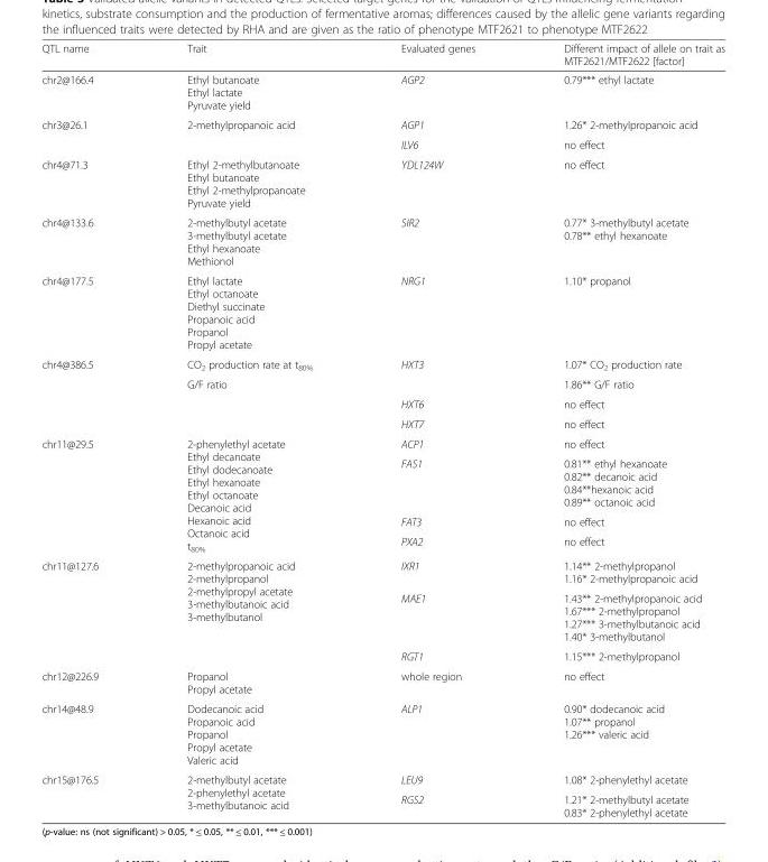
<table><thead><tr><td>QTL name</td><td>Trait</td><td>Evaluated genes</td><td>Different impact of allele on trait as MTF2621/MTF2622 [factor]</td></tr></thead><tbody><tr><td>chr2@166.4</td><td>Ethyl butanoate Ethyl lactate Pyruvate yield</td><td>AGP2</td><td>0.79*** ethyl lactate</td></tr><tr><td rowspan="2">chr3@26.1</td><td rowspan="2">2-methylpropanoic acid</td><td>AGP1</td><td>1.26* 2-methylpropanoic acid</td></tr><tr><td>ILV6</td><td>no effect</td></tr><tr><td>chr4@71.3</td><td>Ethyl 2-methylbutanoate Ethyl butanoate Ethyl 2-methylpropanoate Pyruvate yield</td><td>YDL124W</td><td>no effect</td></tr><tr><td>chr4@133.6</td><td>2-methylbutyl acetate 3-methylbutyl acetate Ethyl hexanoate Methionol</td><td>SIR2</td><td>0.77* 3-methylbutyl acetate 0.78** ethyl hexanoate</td></tr><tr><td>chr4@177.5</td><td>Ethyl lactate Ethyl octanoate Diethyl succinate Propanoic acid Propanol Propyl acetate</td><td>NRG1</td><td>1.10* propanol</td></tr><tr><td rowspan="4">chr4@386.5</td><td>CO<sub>2</sub> production rate at t<sub>80%</sub></td><td>HXT3</td><td>1.07* CO<sub>2</sub> production rate</td></tr><tr><td>G/F ratio</td><td></td><td>1.86** G/F ratio</td></tr><tr><td></td><td>HXT6</td><td>no effect</td></tr><tr><td></td><td>HXT7</td><td>no effect</td></tr><tr><td rowspan="4">chr11@29.5</td><td rowspan="4">2-phenylethyl acetate Ethyl decanoate Ethyl dodecanoate Ethyl hexanoate Ethyl octanoate Decanoic acid Hexanoic acid Octanoic acid t<sub>80%</sub></td><td>ACP1</td><td>no effect</td></tr><tr><td>FAS1</td><td>0.81** ethyl hexanoate 0.82** decanoic acid 0.84**hexanoic acid 0.89** octanoic acid</td></tr><tr><td>FAT3</td><td>no effect</td></tr><tr><td>PXA2</td><td>no effect</td></tr><tr><td rowspan="3">chr11@127.6</td><td rowspan="3">2-methylpropanoic acid 2-methylpropanol 2-methylpropyl acetate 3-methylbutanoic acid 3-methylbutanol</td><td>IXR1</td><td>1.14** 2-methylpropanol 1.16* 2-methylpropanoic acid</td></tr><tr><td>MAE1</td><td>1.43** 2-methylpropanoic acid 1.67*** 2-methylpropanol 1.27*** 3-methylbutanoic acid 1.40* 3-methylbutanol</td></tr><tr><td>RGT1</td><td>1.15*** 2-methylpropanol</td></tr><tr><td>chr12@226.9</td><td>Propanol Propyl acetate</td><td>whole region</td><td>no effect</td></tr><tr><td>chr14@48.9</td><td>Dodecanoic acid Propanoic acid Propanol Propyl acetate Valeric acid</td><td>ALP1</td><td>0.90* dodecanoic acid 1.07** propanol 1.26*** valeric acid</td></tr><tr><td rowspan="2">chr15@176.5</td><td rowspan="2">2-methylbutyl acetate 2-phenylethyl acetate 3-methylbutanoic acid</td><td>LEU9</td><td>1.08* 2-phenylethyl acetate</td></tr><tr><td>RGS2</td><td>1.21* 2-methylbutyl acetate 0.83* 2-phenylethyl acetate</td></tr></tbody></table>